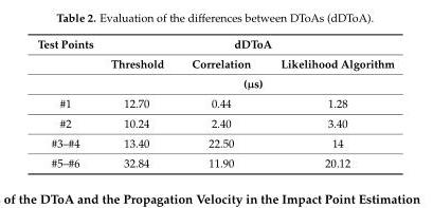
<table><thead><tr><td rowspan="3">Test Points</td><td colspan="3">dDToA</td></tr><tr><td>Threshold</td><td>Correlation</td><td>Likelihood Algorithm</td></tr><tr><td colspan="3">(µs)</td></tr></thead><tbody><tr><td>#1</td><td>12.70</td><td>0.44</td><td>1.28</td></tr><tr><td>#2</td><td>10.24</td><td>2.40</td><td>3.40</td></tr><tr><td>#3–#4</td><td>13.40</td><td>22.50</td><td>14</td></tr><tr><td>#5–#6</td><td>32.84</td><td>11.90</td><td>20.12</td></tr></tbody></table>